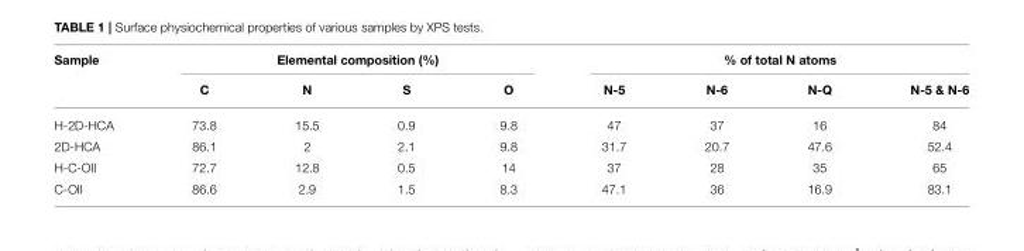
<table><thead><tr><td rowspan="2">Sample</td><td colspan="4">Elemental composition (%)</td><td colspan="4">% of total N atoms</td></tr><tr><td>C</td><td>N</td><td>S</td><td>O</td><td>N-5</td><td>N-6</td><td>N-Q</td><td>N-5 &amp; N-6</td></tr></thead><tbody><tr><td>H-2D-HCA</td><td>73.8</td><td>15.5</td><td>0.9</td><td>9.8</td><td>47</td><td>37</td><td>16</td><td>84</td></tr><tr><td>2D-HCA</td><td>86.1</td><td>2</td><td>2.1</td><td>9.8</td><td>31.7</td><td>20.7</td><td>47.6</td><td>52.4</td></tr><tr><td>H-C-OII</td><td>72.7</td><td>12.8</td><td>0.5</td><td>14</td><td>37</td><td>28</td><td>35</td><td>65</td></tr><tr><td>C-OII</td><td>86.6</td><td>2.9</td><td>1.5</td><td>8.3</td><td>47.1</td><td>36</td><td>16.9</td><td>83.1</td></tr></tbody></table>